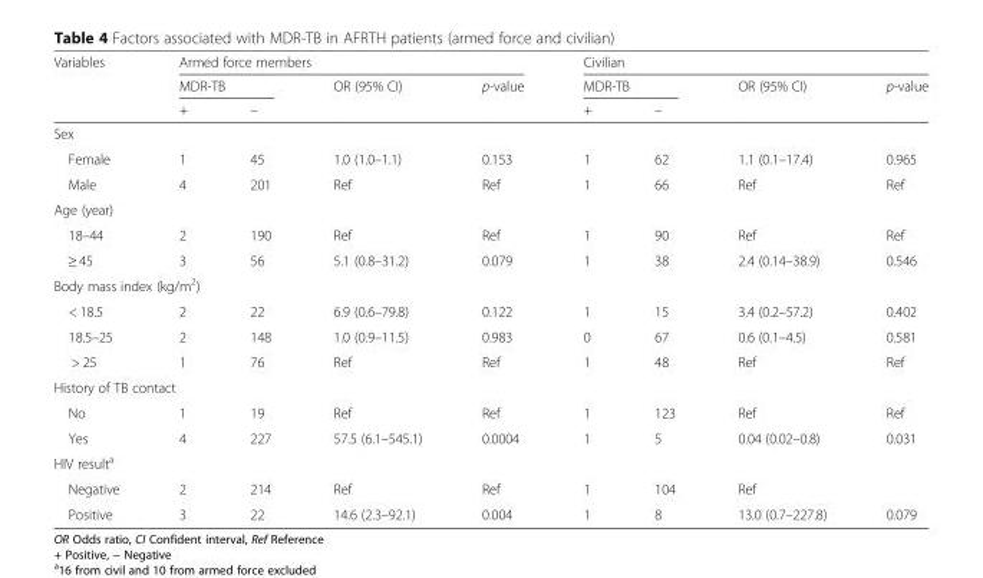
<table><thead><tr><td rowspan="3">Variables</td><td colspan="4">Armed force members</td><td colspan="4">Civilian</td></tr><tr><td colspan="2">MDR-TB</td><td rowspan="2">OR (95% CI)</td><td rowspan="2">p-value</td><td colspan="2">MDR-TB</td><td rowspan="2">OR (95% CI)</td><td rowspan="2">p-value</td></tr><tr><td>+</td><td>–</td><td>+</td><td>–</td></tr></thead><tbody><tr><td colspan="9">Sex</td></tr><tr><td>Female</td><td>1</td><td>45</td><td>1.0 (1.0–1.1)</td><td>0.153</td><td>1</td><td>62</td><td>1.1 (0.1–17.4)</td><td>0.965</td></tr><tr><td>Male</td><td>4</td><td>201</td><td>Ref</td><td>Ref</td><td>1</td><td>66</td><td>Ref</td><td>Ref</td></tr><tr><td colspan="9">Age (year)</td></tr><tr><td>18–44</td><td>2</td><td>190</td><td>Ref</td><td>Ref</td><td>1</td><td>90</td><td>Ref</td><td>Ref</td></tr><tr><td>≥ 45</td><td>3</td><td>56</td><td>5.1 (0.8–31.2)</td><td>0.079</td><td>1</td><td>38</td><td>2.4 (0.14–38.9)</td><td>0.546</td></tr><tr><td colspan="9">Body mass index (kg/m<sup>2</sup>)</td></tr><tr><td>&lt; 18.5</td><td>2</td><td>22</td><td>6.9 (0.6–79.8)</td><td>0.122</td><td>1</td><td>15</td><td>3.4 (0.2–57.2)</td><td>0.402</td></tr><tr><td>18.5–25</td><td>2</td><td>148</td><td>1.0 (0.9–11.5)</td><td>0.983</td><td>0</td><td>67</td><td>0.6 (0.1–4.5)</td><td>0.581</td></tr><tr><td>&gt; 25</td><td>1</td><td>76</td><td>Ref</td><td>Ref</td><td>1</td><td>48</td><td>Ref</td><td>Ref</td></tr><tr><td colspan="9">History of TB contact</td></tr><tr><td>No</td><td>1</td><td>19</td><td>Ref</td><td>Ref</td><td>1</td><td>123</td><td>Ref</td><td>Ref</td></tr><tr><td>Yes</td><td>4</td><td>227</td><td>57.5 (6.1–545.1)</td><td>0.0004</td><td>1</td><td>5</td><td>0.04 (0.02–0.8)</td><td>0.031</td></tr><tr><td colspan="9">HIV result<sup>a</sup></td></tr><tr><td>Negative</td><td>2</td><td>214</td><td>Ref</td><td>Ref</td><td>1</td><td>104</td><td>Ref</td><td></td></tr><tr><td>Positive</td><td>3</td><td>22</td><td>14.6 (2.3–92.1)</td><td>0.004</td><td>1</td><td>8</td><td>13.0 (0.7–227.8)</td><td>0.079</td></tr></tbody></table>